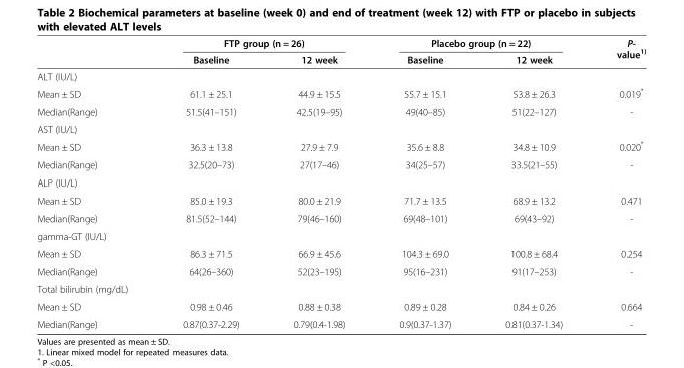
<table><thead><tr><td rowspan="2"></td><td colspan="2">FTP group (n = 26)</td><td colspan="2">Placebo group (n = 22)</td><td rowspan="2">P- value<sup>1)</sup></td></tr><tr><td>Baseline</td><td>12 week</td><td>Baseline</td><td>12 week</td></tr></thead><tbody><tr><td colspan="6">ALT (IU/L)</td></tr><tr><td>Mean ± SD</td><td>61.1 ± 25.1</td><td>44.9 ± 15.5</td><td>55.7 ± 15.1</td><td>53.8 ± 26.3</td><td>0.019*</td></tr><tr><td>Median(Range)</td><td>51.5(41–151)</td><td>42.5(19–95)</td><td>49(40–85)</td><td>51(22–127)</td><td>-</td></tr><tr><td colspan="6">AST (IU/L)</td></tr><tr><td>Mean ± SD</td><td>36.3 ± 13.8</td><td>27.9 ± 7.9</td><td>35.6 ± 8.8</td><td>34.8 ± 10.9</td><td>0.020*</td></tr><tr><td>Median(Range)</td><td>32.5(20–73)</td><td>27(17–46)</td><td>34(25–57)</td><td>33.5(21–55)</td><td>-</td></tr><tr><td colspan="6">ALP (IU/L)</td></tr><tr><td>Mean ± SD</td><td>85.0 ± 19.3</td><td>80.0 ± 21.9</td><td>71.7 ± 13.5</td><td>68.9 ± 13.2</td><td>0.471</td></tr><tr><td>Median(Range)</td><td>81.5(52–144)</td><td>79(46–160)</td><td>69(48–101)</td><td>69(43–92)</td><td>-</td></tr><tr><td colspan="6">gamma-GT (IU/L)</td></tr><tr><td>Mean ± SD</td><td>86.3 ± 71.5</td><td>66.9 ± 45.6</td><td>104.3 ± 69.0</td><td>100.8 ± 68.4</td><td>0.254</td></tr><tr><td>Median(Range)</td><td>64(26–360)</td><td>52(23–195)</td><td>95(16–231)</td><td>91(17–253)</td><td>-</td></tr><tr><td colspan="6">Total bilirubin (mg/dL)</td></tr><tr><td>Mean ± SD</td><td>0.98 ± 0.46</td><td>0.88 ± 0.38</td><td>0.89 ± 0.28</td><td>0.84 ± 0.26</td><td>0.664</td></tr><tr><td>Median(Range)</td><td>0.87(0.37-2.29)</td><td>0.79(0.4-1.98)</td><td>0.9(0.37-1.37)</td><td>0.81(0.37-1.34)</td><td>-</td></tr></tbody></table>